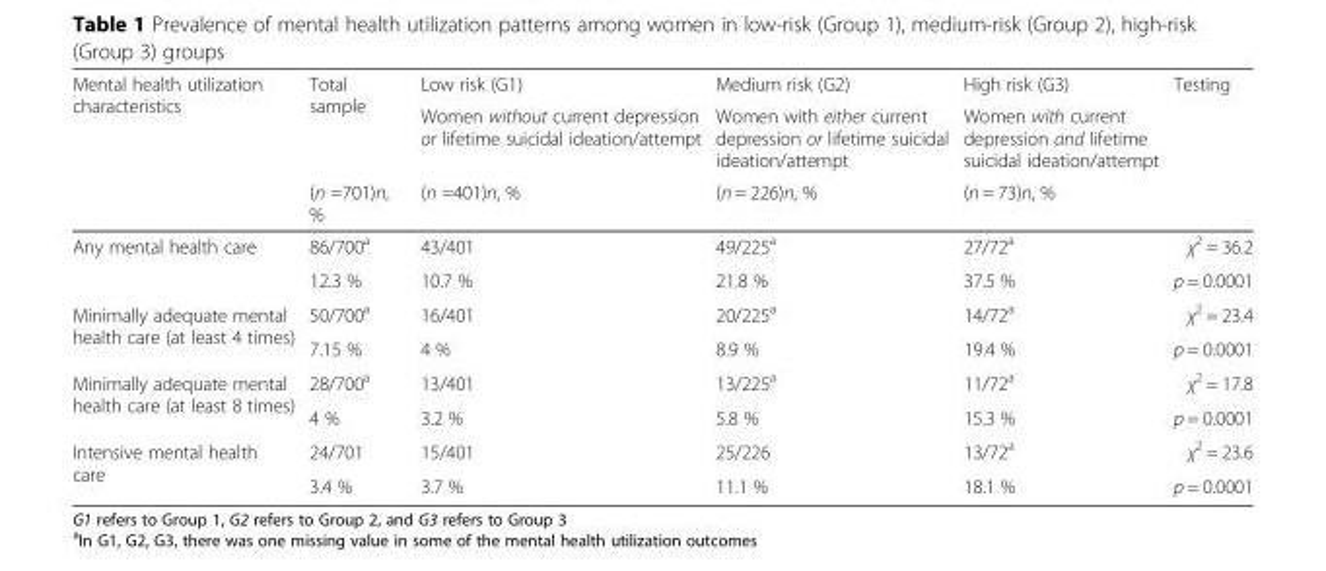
<table><thead><tr><td rowspan="3">Mental health utilization characteristics</td><td rowspan="3">Total sample (n =701)n, %</td><td rowspan="3">Low risk (G1) Women without current depression or lifetime suicidal ideation/attempt (n =401)n, %</td><td rowspan="3">Medium risk (G2) Women with either current depression or lifetime suicidal ideation/attempt (n = 226)n, %</td><td rowspan="3">High risk (G3) Women with current depression and lifetime suicidal ideation/attempt (n = 73)n, %</td><td rowspan="3">Testing</td></tr><tr></tr><tr></tr></thead><tbody><tr><td rowspan="2">Any mental health care</td><td>86/700<sup>a</sup></td><td>43/401</td><td>49/225<sup>a</sup></td><td>27/72<sup>a</sup></td><td>χ<sup>2</sup> = 36.2</td></tr><tr><td>12.3 %</td><td>10.7 %</td><td>21.8 %</td><td>37.5 %</td><td>p = 0.0001</td></tr><tr><td rowspan="2">Minimally adequate mental health care (at least 4 times)</td><td>50/700<sup>a</sup></td><td>16/401</td><td>20/225<sup>a</sup></td><td>14/72<sup>a</sup></td><td>χ<sup>2</sup> = 23.4</td></tr><tr><td>7.15 %</td><td>4 %</td><td>8.9 %</td><td>19.4 %</td><td>p = 0.0001</td></tr><tr><td rowspan="2">Minimally adequate mental health care (at least 8 times)</td><td>28/700<sup>a</sup></td><td>13/401</td><td>13/225<sup>a</sup></td><td>11/72<sup>a</sup></td><td>χ<sup>2</sup> = 17.8</td></tr><tr><td>4 %</td><td>3.2 %</td><td>5.8 %</td><td>15.3 %</td><td>p = 0.0001</td></tr><tr><td rowspan="2">Intensive mental health care</td><td>24/701</td><td>15/401</td><td>25/226</td><td>13/72<sup>a</sup></td><td>χ<sup>2</sup> = 23.6</td></tr><tr><td>3.4 %</td><td>3.7 %</td><td>11.1 %</td><td>18.1 %</td><td>p = 0.0001</td></tr></tbody></table>